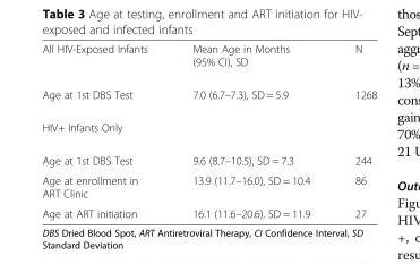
<table><tbody><tr><td>All HIV-Exposed Infants</td><td>Mean Age in Months (95% CI), SD</td><td>N</td></tr><tr><td>Age at 1st DBS Test</td><td>7.0 (6.7–7.3), SD = 5.9</td><td>1268</td></tr><tr><td colspan="3">HIV+ Infants Only</td></tr><tr><td>Age at 1st DBS Test</td><td>9.6 (8.7–10.5), SD = 7.3</td><td>244</td></tr><tr><td>Age at enrollment in ART Clinic</td><td>13.9 (11.7–16.0), SD = 10.4</td><td>86</td></tr><tr><td>Age at ART initiation</td><td>16.1 (11.6–20.6), SD = 11.9</td><td>27</td></tr></tbody></table>